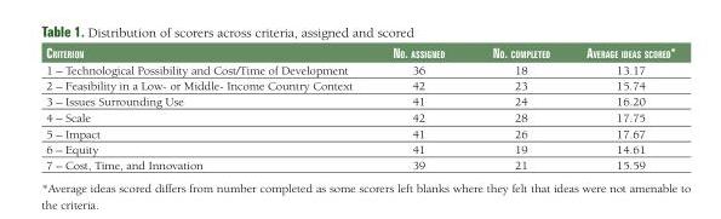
<table><thead><tr><td>Criterion</td><td>no. assigned</td><td>no. Completed</td><td>average ideas sCored*</td></tr></thead><tbody><tr><td>1 – Technological Possibility and Cost/Time of Development</td><td>36</td><td>18</td><td>13.17</td></tr><tr><td>2 – Feasibility in a Low- or Middle- Income Country Context</td><td>42</td><td>23</td><td>15.74</td></tr><tr><td>3 – Issues Surrounding Use</td><td>41</td><td>24</td><td>16.20</td></tr><tr><td>4 – Scale</td><td>42</td><td>28</td><td>17.75</td></tr><tr><td>5 – Impact</td><td>41</td><td>26</td><td>17.67</td></tr><tr><td>6 – Equity</td><td>41</td><td>19</td><td>14.61</td></tr><tr><td>7 – Cost, Time, and Innovation</td><td>39</td><td>21</td><td>15.59</td></tr></tbody></table>